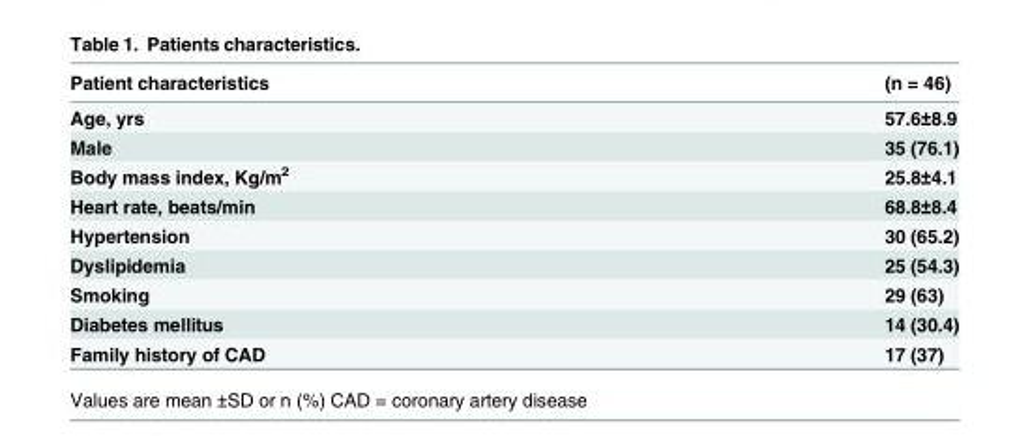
<table><thead><tr><td>Patient characteristics</td><td>(n = 46)</td></tr></thead><tbody><tr><td>Age, yrs</td><td>57.6±8.9</td></tr><tr><td>Male</td><td>35 (76.1)</td></tr><tr><td>Body mass index, Kg/m<sup>2</sup></td><td>25.8±4.1</td></tr><tr><td>Heart rate, beats/min</td><td>68.8±8.4</td></tr><tr><td>Hypertension</td><td>30 (65.2)</td></tr><tr><td>Dyslipidemia</td><td>25 (54.3)</td></tr><tr><td>Smoking</td><td>29 (63)</td></tr><tr><td>Diabetes mellitus</td><td>14 (30.4)</td></tr><tr><td>Family history of CAD</td><td>17 (37)</td></tr></tbody></table>